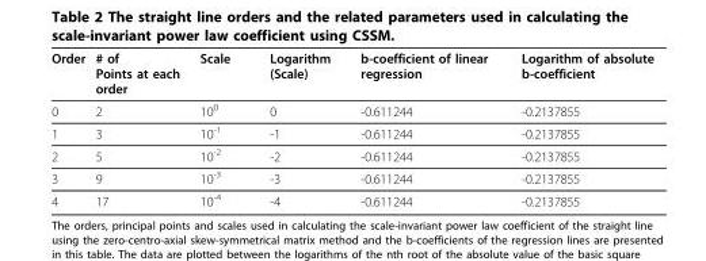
<table><thead><tr><td>Order</td><td># of Points at each order</td><td>Scale</td><td>Logarithm (Scale)</td><td>b-coefficient of linear regression</td><td>Logarithm of absolute b-coefficient</td></tr></thead><tbody><tr><td>0</td><td>2</td><td>10<sup>0</sup></td><td>0</td><td>-0.611244</td><td>-0.2137855</td></tr><tr><td>1</td><td>3</td><td>10<sup>-1</sup></td><td>-1</td><td>-0.611244</td><td>-0.2137855</td></tr><tr><td>2</td><td>5</td><td>10<sup>-2</sup></td><td>-2</td><td>-0.611244</td><td>-0.2137855</td></tr><tr><td>3</td><td>9</td><td>10<sup>-3</sup></td><td>-3</td><td>-0.611244</td><td>-0.2137855</td></tr><tr><td>4</td><td>17</td><td>10<sup>-4</sup></td><td>-4</td><td>-0.611244</td><td>-0.2137855</td></tr></tbody></table>